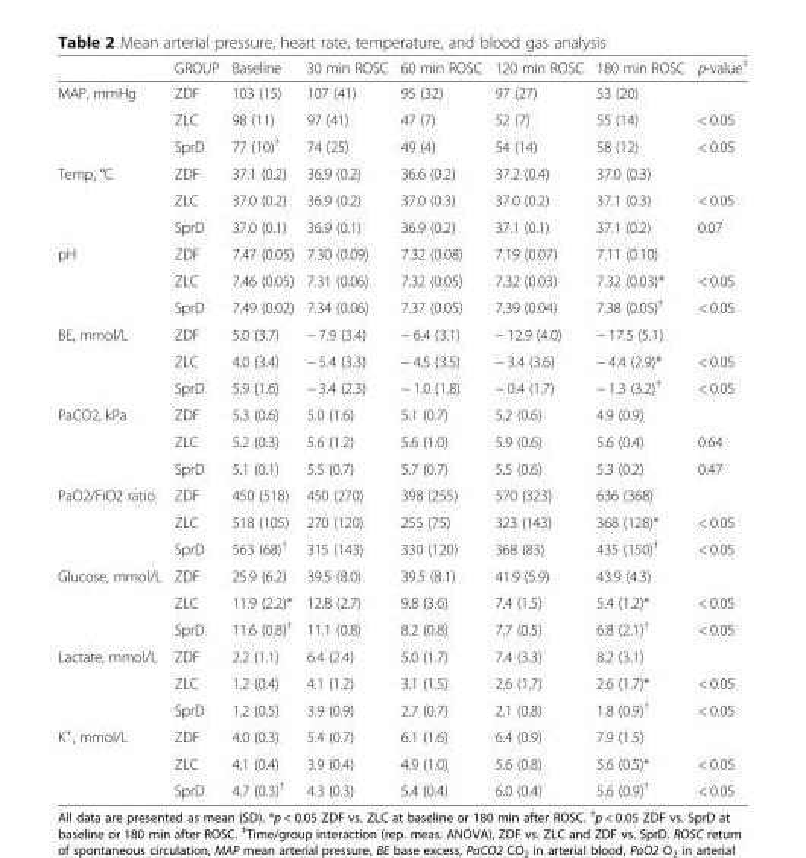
<table><thead><tr><td></td><td>GROUP</td><td>Baseline</td><td>30 min ROSC</td><td>60 min ROSC</td><td>120 min ROSC</td><td>180 min ROSC</td><td>p-value<sup>‡</sup></td></tr></thead><tbody><tr><td rowspan="3">MAP, mmHg</td><td>ZDF</td><td>103 (15)</td><td>107 (41)</td><td>95 (32)</td><td>97 (27)</td><td>53 (20)</td><td></td></tr><tr><td>ZLC</td><td>98 (11)</td><td>97 (41)</td><td>47 (7)</td><td>52 (7)</td><td>55 (14)</td><td>&lt; 0.05</td></tr><tr><td>SprD</td><td>77 (10)<sup>†</sup></td><td>74 (25)</td><td>49 (4)</td><td>54 (14)</td><td>58 (12)</td><td>&lt; 0.05</td></tr><tr><td rowspan="3">Temp, °C</td><td>ZDF</td><td>37.1 (0.2)</td><td>36.9 (0.2)</td><td>36.6 (0.2)</td><td>37.2 (0.4)</td><td>37.0 (0.3)</td><td></td></tr><tr><td>ZLC</td><td>37.0 (0.2)</td><td>36.9 (0.2)</td><td>37.0 (0.3)</td><td>37.0 (0.2)</td><td>37.1 (0.3)</td><td>&lt; 0.05</td></tr><tr><td>SprD</td><td>37.0 (0.1)</td><td>36.9 (0.1)</td><td>36.9 (0.2)</td><td>37.1 (0.1)</td><td>37.1 (0.2)</td><td>0.07</td></tr><tr><td rowspan="3">pH</td><td>ZDF</td><td>7.47 (0.05)</td><td>7.30 (0.09)</td><td>7.32 (0.08)</td><td>7.19 (0.07)</td><td>7.11 (0.10)</td><td></td></tr><tr><td>ZLC</td><td>7.46 (0.05)</td><td>7.31 (0.06)</td><td>7.32 (0.05)</td><td>7.32 (0.03)</td><td>7.32 (0.03)*</td><td>&lt; 0.05</td></tr><tr><td>SprD</td><td>7.49 (0.02)</td><td>7.34 (0.06)</td><td>7.37 (0.05)</td><td>7.39 (0.04)</td><td>7.38 (0.05)<sup>†</sup></td><td>&lt; 0.05</td></tr><tr><td rowspan="3">BE, mmol/L</td><td>ZDF</td><td>5.0 (3.7)</td><td>− 7.9 (3.4)</td><td>− 6.4 (3.1)</td><td>− 12.9 (4.0)</td><td>− 17.5 (5.1)</td><td></td></tr><tr><td>ZLC</td><td>4.0 (3.4)</td><td>− 5.4 (3.3)</td><td>− 4.5 (3.5)</td><td>− 3.4 (3.6)</td><td>− 4.4 (2.9)*</td><td>&lt; 0.05</td></tr><tr><td>SprD</td><td>5.9 (1.6)</td><td>− 3.4 (2.3)</td><td>− 1.0 (1.8)</td><td>− 0.4 (1.7)</td><td>− 1.3 (3.2)<sup>†</sup></td><td>&lt; 0.05</td></tr><tr><td rowspan="3">PaCO2, kPa</td><td>ZDF</td><td>5.3 (0.6)</td><td>5.0 (1.6)</td><td>5.1 (0.7)</td><td>5.2 (0.6)</td><td>4.9 (0.9)</td><td></td></tr><tr><td>ZLC</td><td>5.2 (0.3)</td><td>5.6 (1.2)</td><td>5.6 (1.0)</td><td>5.9 (0.6)</td><td>5.6 (0.4)</td><td>0.64</td></tr><tr><td>SprD</td><td>5.1 (0.1)</td><td>5.5 (0.7)</td><td>5.7 (0.7)</td><td>5.5 (0.6)</td><td>5.3 (0.2)</td><td>0.47</td></tr><tr><td rowspan="3">PaO2/FiO2 ratio</td><td>ZDF</td><td>450 (518)</td><td>450 (270)</td><td>398 (255)</td><td>570 (323)</td><td>636 (368)</td><td></td></tr><tr><td>ZLC</td><td>518 (105)</td><td>270 (120)</td><td>255 (75)</td><td>323 (143)</td><td>368 (128)*</td><td>&lt; 0.05</td></tr><tr><td>SprD</td><td>563 (68)<sup>†</sup></td><td>315 (143)</td><td>330 (120)</td><td>368 (83)</td><td>435 (150)<sup>†</sup></td><td>&lt; 0.05</td></tr><tr><td rowspan="3">Glucose, mmol/L</td><td>ZDF</td><td>25.9 (6.2)</td><td>39.5 (8.0)</td><td>39.5 (8.1)</td><td>41.9 (5.9)</td><td>43.9 (4.3)</td><td></td></tr><tr><td>ZLC</td><td>11.9 (2.2)*</td><td>12.8 (2.7)</td><td>9.8 (3.6)</td><td>7.4 (1.5)</td><td>5.4 (1.2)*</td><td>&lt; 0.05</td></tr><tr><td>SprD</td><td>11.6 (0.8)<sup>†</sup></td><td>11.1 (0.8)</td><td>8.2 (0.8)</td><td>7.7 (0.5)</td><td>6.8 (2.1)<sup>†</sup></td><td>&lt; 0.05</td></tr><tr><td rowspan="3">Lactate, mmol/L</td><td>ZDF</td><td>2.2 (1.1)</td><td>6.4 (2.4)</td><td>5.0 (1.7)</td><td>7.4 (3.3)</td><td>8.2 (3.1)</td><td></td></tr><tr><td>ZLC</td><td>1.2 (0.4)</td><td>4.1 (1.2)</td><td>3.1 (1.5)</td><td>2.6 (1.7)</td><td>2.6 (1.7)*</td><td>&lt; 0.05</td></tr><tr><td>SprD</td><td>1.2 (0.5)</td><td>3.9 (0.9)</td><td>2.7 (0.7)</td><td>2.1 (0.8)</td><td>1.8 (0.9)<sup>†</sup></td><td>&lt; 0.05</td></tr><tr><td rowspan="3">K<sup>+</sup>, mmol/L</td><td>ZDF</td><td>4.0 (0.3)</td><td>5.4 (0.7)</td><td>6.1 (1.6)</td><td>6.4 (0.9)</td><td>7.9 (1.5)</td><td></td></tr><tr><td>ZLC</td><td>4.1 (0.4)</td><td>3.9 (0.4)</td><td>4.9 (1.0)</td><td>5.6 (0.8)</td><td>5.6 (0.5)*</td><td>&lt; 0.05</td></tr><tr><td>SprD</td><td>4.7 (0.3)<sup>†</sup></td><td>4.3 (0.3)</td><td>5.4 (0.4)</td><td>6.0 (0.4)</td><td>5.6 (0.9)<sup>†</sup></td><td>&lt; 0.05</td></tr></tbody></table>